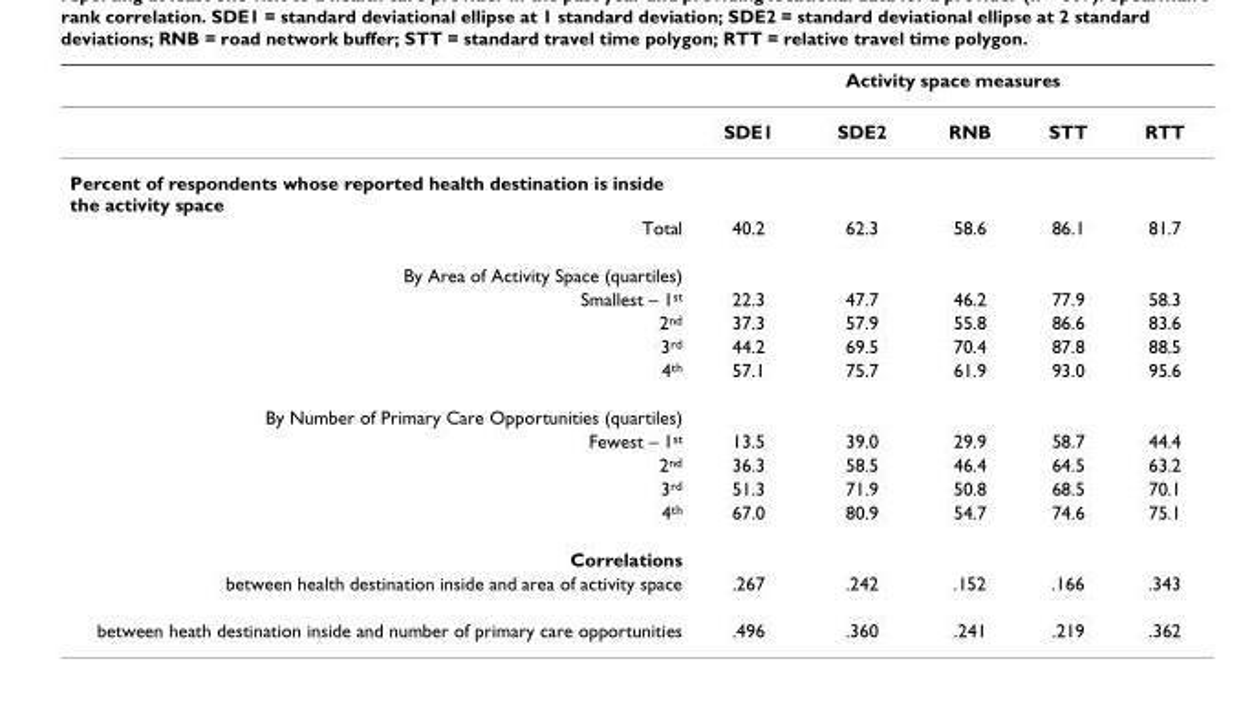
<table><thead><tr><td rowspan="2"></td><td colspan="5">Activity space measures</td></tr><tr><td>SDE1</td><td>SDE2</td><td>RNB</td><td>STT</td><td>RTT</td></tr></thead><tbody><tr><td colspan="6">Percent of respondents whose reported health destination is inside the activity space</td></tr><tr><td>Total</td><td>40.2</td><td>62.3</td><td>58.6</td><td>86.1</td><td>81.7</td></tr><tr><td colspan="6">By Area of Activity Space (quartiles)</td></tr><tr><td>Smallest – 1<sup>st</sup></td><td>22.3</td><td>47.7</td><td>46.2</td><td>77.9</td><td>58.3</td></tr><tr><td>2<sup>nd</sup></td><td>37.3</td><td>57.9</td><td>55.8</td><td>86.6</td><td>83.6</td></tr><tr><td>3<sup>rd</sup></td><td>44.2</td><td>69.5</td><td>70.4</td><td>87.8</td><td>88.5</td></tr><tr><td>4<sup>th</sup></td><td>57.1</td><td>75.7</td><td>61.9</td><td>93.0</td><td>95.6</td></tr><tr><td colspan="6">By Number of Primary Care Opportunities (quartiles)</td></tr><tr><td>Fewest – 1<sup>st</sup></td><td>13.5</td><td>39.0</td><td>29.9</td><td>58.7</td><td>44.4</td></tr><tr><td>2<sup>nd</sup></td><td>36.3</td><td>58.5</td><td>46.4</td><td>64.5</td><td>63.2</td></tr><tr><td>3<sup>rd</sup></td><td>51.3</td><td>71.9</td><td>50.8</td><td>68.5</td><td>70.1</td></tr><tr><td>4<sup>th</sup></td><td>67.0</td><td>80.9</td><td>54.7</td><td>74.6</td><td>75.1</td></tr><tr><td colspan="6">Correlations</td></tr><tr><td>between health destination inside and area of activity space</td><td>.267</td><td>.242</td><td>.152</td><td>.166</td><td>.343</td></tr><tr><td>between heath destination inside and number of primary care opportunities</td><td>.496</td><td>.360</td><td>.241</td><td>.219</td><td>.362</td></tr></tbody></table>